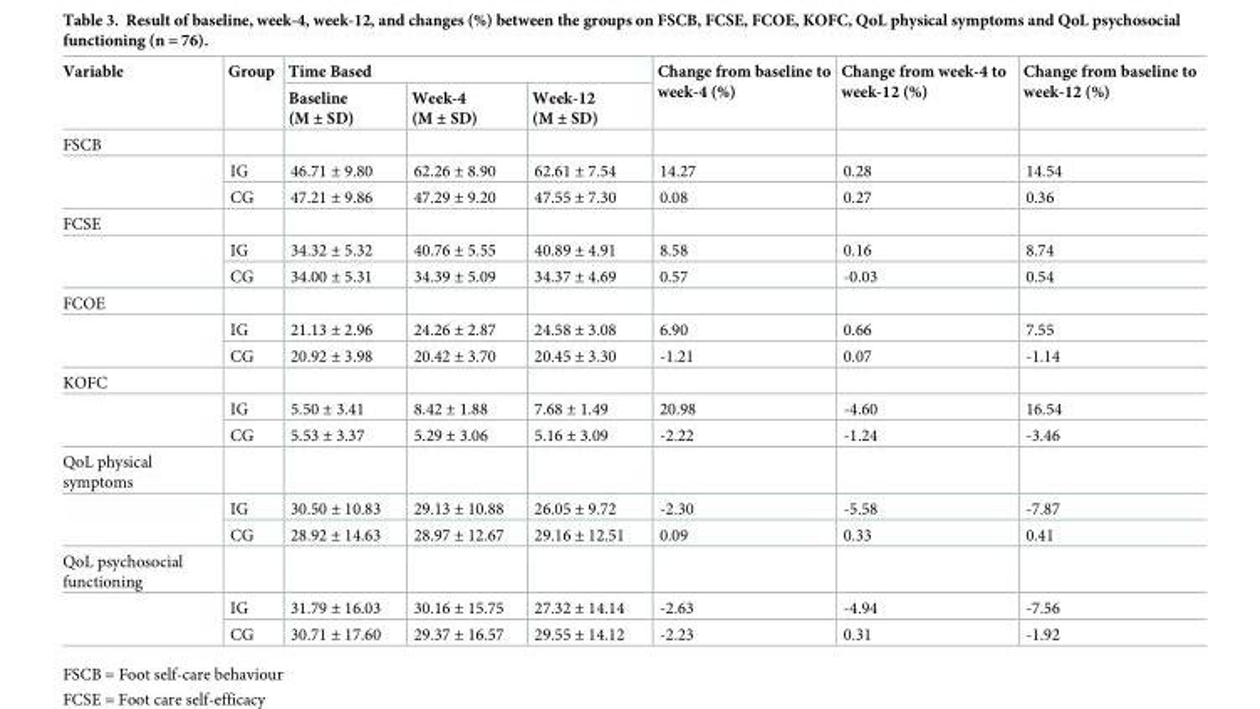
<table><thead><tr><td rowspan="2">Variable</td><td rowspan="2">Group</td><td colspan="3">Time Based</td><td rowspan="2">Change from baseline to week-4 (%)</td><td rowspan="2">Change from week-4 to week-12 (%)</td><td rowspan="2">Change from baseline to week-12 (%)</td></tr><tr><td>Baseline (M ± SD)</td><td>Week-4 (M ± SD)</td><td>Week-12 (M ± SD)</td></tr></thead><tbody><tr><td colspan="8">FSCB</td></tr><tr><td rowspan="2"></td><td>IG</td><td>46.71 ± 9.80</td><td>62.26 ± 8.90</td><td>62.61 ± 7.54</td><td>14.27</td><td>0.28</td><td>14.54</td></tr><tr><td>CG</td><td>47.21 ± 9.86</td><td>47.29 ± 9.20</td><td>47.55 ± 7.30</td><td>0.08</td><td>0.27</td><td>0.36</td></tr><tr><td colspan="8">FCSE</td></tr><tr><td rowspan="2"></td><td>IG</td><td>34.32 ± 5.32</td><td>40.76 ± 5.55</td><td>40.89 ± 4.91</td><td>8.58</td><td>0.16</td><td>8.74</td></tr><tr><td>CG</td><td>34.00 ± 5.31</td><td>34.39 ± 5.09</td><td>34.37 ± 4.69</td><td>0.57</td><td>-0.03</td><td>0.54</td></tr><tr><td colspan="8">FCOE</td></tr><tr><td rowspan="2"></td><td>IG</td><td>21.13 ± 2.96</td><td>24.26 ± 2.87</td><td>24.58 ± 3.08</td><td>6.90</td><td>0.66</td><td>7.55</td></tr><tr><td>CG</td><td>20.92 ± 3.98</td><td>20.42 ± 3.70</td><td>20.45 ± 3.30</td><td>-1.21</td><td>0.07</td><td>-1.14</td></tr><tr><td colspan="8">KOFC</td></tr><tr><td rowspan="2"></td><td>IG</td><td>5.50 ± 3.41</td><td>8.42 ± 1.88</td><td>7.68 ± 1.49</td><td>20.98</td><td>-4.60</td><td>16.54</td></tr><tr><td>CG</td><td>5.53 ± 3.37</td><td>5.29 ± 3.06</td><td>5.16 ± 3.09</td><td>-2.22</td><td>-1.24</td><td>-3.46</td></tr><tr><td colspan="8">QoL physical symptoms</td></tr><tr><td rowspan="2"></td><td>IG</td><td>30.50 ± 10.83</td><td>29.13 ± 10.88</td><td>26.05 ± 9.72</td><td>-2.30</td><td>-5.58</td><td>-7.87</td></tr><tr><td>CG</td><td>28.92 ± 14.63</td><td>28.97 ± 12.67</td><td>29.16 ± 12.51</td><td>0.09</td><td>0.33</td><td>0.41</td></tr><tr><td colspan="8">QoL psychosocial functioning</td></tr><tr><td rowspan="2"></td><td>IG</td><td>31.79 ± 16.03</td><td>30.16 ± 15.75</td><td>27.32 ± 14.14</td><td>-2.63</td><td>-4.94</td><td>-7.56</td></tr><tr><td>CG</td><td>30.71 ± 17.60</td><td>29.37 ± 16.57</td><td>29.55 ± 14.12</td><td>-2.23</td><td>0.31</td><td>-1.92</td></tr></tbody></table>